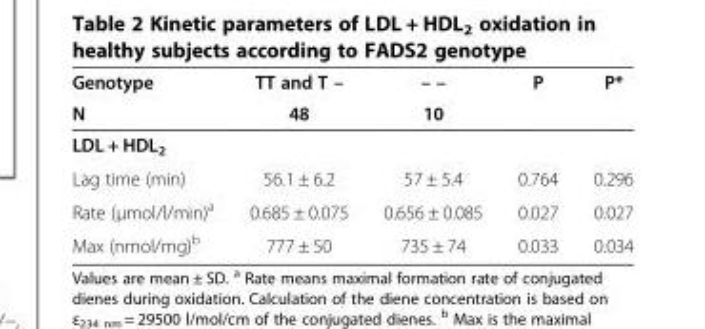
<table><thead><tr><td rowspan="2">Genotype N</td><td rowspan="2">TT and T – 48</td><td rowspan="2">– – 10</td><td rowspan="2">P</td><td rowspan="2">P*</td></tr><tr></tr></thead><tbody><tr><td colspan="5">LDL + HDL<sub>2</sub></td></tr><tr><td>Lag time (min)</td><td>56.1 ± 6.2</td><td>57 ± 5.4</td><td>0.764</td><td>0.296</td></tr><tr><td>Rate (μmol/l/min)<sup>a</sup></td><td>0.685 ± 0.075</td><td>0.656 ± 0.085</td><td>0.027</td><td>0.027</td></tr><tr><td>Max (nmol/mg)<sup>b</sup></td><td>777 ± 50</td><td>735 ± 74</td><td>0.033</td><td>0.034</td></tr></tbody></table>